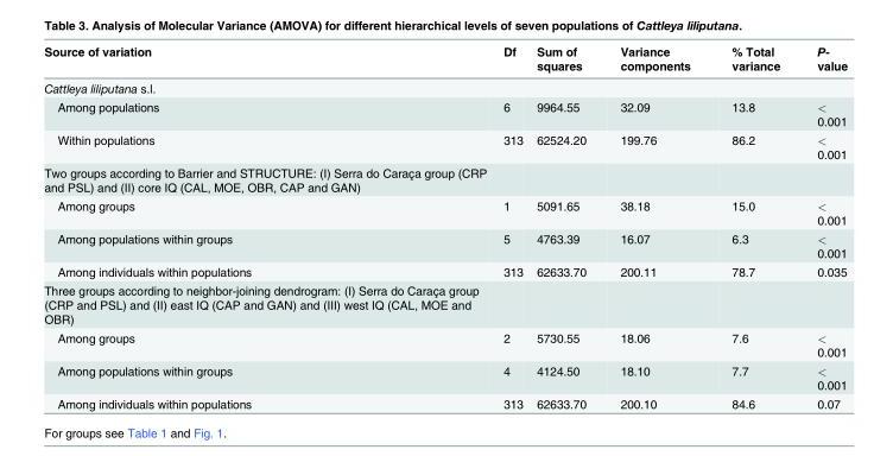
<table><thead><tr><td>Source of variation</td><td>Df</td><td>Sum of squares</td><td>Variance components</td><td>% Total variance</td><td>P- value</td></tr></thead><tbody><tr><td colspan="6">Cattleya liliputana s.l.</td></tr><tr><td>Among populations</td><td>6</td><td>9964.55</td><td>32.09</td><td>13.8</td><td>&lt; 0.001</td></tr><tr><td>Within populations</td><td>313</td><td>62524.20</td><td>199.76</td><td>86.2</td><td>&lt; 0.001</td></tr><tr><td colspan="6">Two groups according to Barrier and STRUCTURE: (I) Serra do Caraça group (CRP and PSL) and (II) core IQ (CAL, MOE, OBR, CAP and GAN)</td></tr><tr><td>Among groups</td><td>1</td><td>5091.65</td><td>38.18</td><td>15.0</td><td>&lt; 0.001</td></tr><tr><td>Among populations within groups</td><td>5</td><td>4763.39</td><td>16.07</td><td>6.3</td><td>&lt; 0.001</td></tr><tr><td>Among individuals within populations</td><td>313</td><td>62633.70</td><td>200.11</td><td>78.7</td><td>0.035</td></tr><tr><td colspan="6">Three groups according to neighbor-joining dendrogram: (I) Serra do Caraça group (CRP and PSL) and (II) east IQ (CAP and GAN) and (III) west IQ (CAL, MOE and OBR)</td></tr><tr><td>Among groups</td><td>2</td><td>5730.55</td><td>18.06</td><td>7.6</td><td>&lt; 0.001</td></tr><tr><td>Among populations within groups</td><td>4</td><td>4124.50</td><td>18.10</td><td>7.7</td><td>&lt; 0.001</td></tr><tr><td>Among individuals within populations</td><td>313</td><td>62633.70</td><td>200.10</td><td>84.6</td><td>0.07</td></tr></tbody></table>